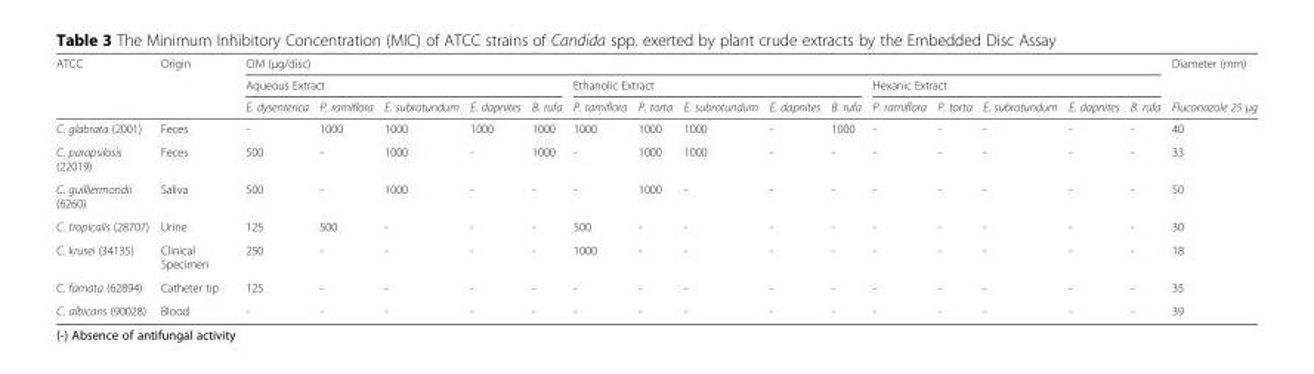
<table><thead><tr><td rowspan="3">ATCC</td><td rowspan="3">Origin</td><td colspan="15">CIM (μg/disc)</td><td rowspan="3">Diameter (mm) Fluconazole 25 μg</td></tr><tr><td colspan="5">Aqueous Extract</td><td colspan="5">Ethanolic Extract</td><td colspan="5">Hexanic Extract</td></tr><tr><td>E. dysenterica</td><td>P. ramiflora</td><td>E. subrotundum</td><td>E. dapnites</td><td>B. rufa</td><td>P. ramiflora</td><td>P. torta</td><td>E. subrotundum</td><td>E. dapnites</td><td>B. rufa</td><td>P. ramiflora</td><td>P. torta</td><td>E. subrotundum</td><td>E. dapnites</td><td>B. rufa</td></tr></thead><tbody><tr><td>C. glabrata (2001)</td><td>Feces</td><td>-</td><td>1000</td><td>1000</td><td>1000</td><td>1000</td><td>1000</td><td>1000</td><td>1000</td><td>-</td><td>1000</td><td>-</td><td>-</td><td>-</td><td>-</td><td>-</td><td>40</td></tr><tr><td>C. parapsilosis (22019)</td><td>Feces</td><td>500</td><td>-</td><td>1000</td><td>-</td><td>1000</td><td>-</td><td>1000</td><td>1000</td><td>-</td><td>-</td><td>-</td><td>-</td><td>-</td><td>-</td><td>-</td><td>33</td></tr><tr><td>C. guilliermondii (6260)</td><td>Saliva</td><td>500</td><td>-</td><td>1000</td><td>-</td><td>-</td><td>-</td><td>1000</td><td>-</td><td>-</td><td>-</td><td>-</td><td>-</td><td>-</td><td>-</td><td>-</td><td>50</td></tr><tr><td>C. tropicalis (28707)</td><td>Urine</td><td>125</td><td>500</td><td>-</td><td>-</td><td>-</td><td>500</td><td>-</td><td>-</td><td>-</td><td>-</td><td>-</td><td>-</td><td>-</td><td>-</td><td>-</td><td>30</td></tr><tr><td>C. krusei (34135)</td><td>Clinical Specimen</td><td>250</td><td>-</td><td>-</td><td>-</td><td>-</td><td>1000</td><td>-</td><td>-</td><td>-</td><td>-</td><td>-</td><td>-</td><td>-</td><td>-</td><td>-</td><td>18</td></tr><tr><td>C. famata (62894)</td><td>Catheter tip</td><td>125</td><td>-</td><td>-</td><td>-</td><td>-</td><td>-</td><td>-</td><td>-</td><td>-</td><td>-</td><td>-</td><td>-</td><td>-</td><td>-</td><td>-</td><td>35</td></tr><tr><td>C. albicans (90028)</td><td>Blood</td><td>-</td><td>-</td><td>-</td><td>-</td><td>-</td><td>-</td><td>-</td><td>-</td><td>-</td><td>-</td><td>-</td><td>-</td><td>-</td><td>-</td><td>-</td><td>39</td></tr></tbody></table>